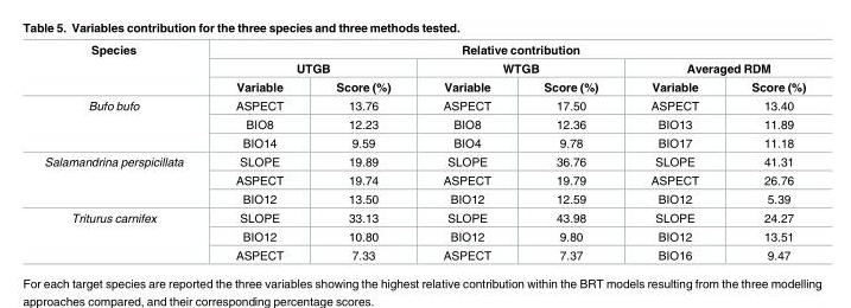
<table><thead><tr><td rowspan="3">Species</td><td colspan="6">Relative contribution</td></tr><tr><td colspan="2">UTGB</td><td colspan="2">WTGB</td><td colspan="2">Averaged RDM</td></tr><tr><td>Variable</td><td>Score (%)</td><td>Variable</td><td>Score (%)</td><td>Variable</td><td>Score (%)</td></tr></thead><tbody><tr><td rowspan="3">Bufo bufo</td><td>ASPECT</td><td>13.76</td><td>ASPECT</td><td>17.50</td><td>ASPECT</td><td>13.40</td></tr><tr><td>BIO8</td><td>12.23</td><td>BIO8</td><td>12.36</td><td>BIO13</td><td>11.89</td></tr><tr><td>BIO14</td><td>9.59</td><td>BIO4</td><td>9.78</td><td>BIO17</td><td>11.18</td></tr><tr><td rowspan="3">Salamandrina perspicillata</td><td>SLOPE</td><td>19.89</td><td>SLOPE</td><td>36.76</td><td>SLOPE</td><td>41.31</td></tr><tr><td>ASPECT</td><td>19.74</td><td>ASPECT</td><td>19.79</td><td>ASPECT</td><td>26.76</td></tr><tr><td>BIO12</td><td>13.50</td><td>BIO12</td><td>12.59</td><td>BIO12</td><td>5.39</td></tr><tr><td rowspan="3">Triturus carnifex</td><td>SLOPE</td><td>33.13</td><td>SLOPE</td><td>43.98</td><td>SLOPE</td><td>24.27</td></tr><tr><td>BIO12</td><td>10.80</td><td>BIO12</td><td>9.80</td><td>BIO12</td><td>13.51</td></tr><tr><td>ASPECT</td><td>7.33</td><td>ASPECT</td><td>7.37</td><td>BIO16</td><td>9.47</td></tr></tbody></table>